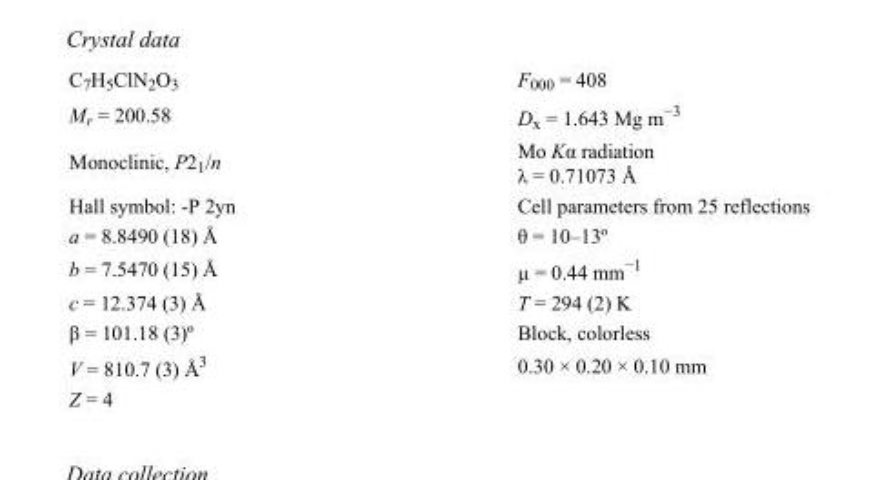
<table><tbody><tr><td>C<sub>7</sub>H<sub>5</sub>ClN<sub>2</sub>O<sub>3</sub></td><td>F000 = 408</td></tr><tr><td>M<sub>r</sub> = 200.58</td><td>D<sub>x</sub> = 1.643 Mg m<sup>−3</sup></td></tr><tr><td>Monoclinic, P2<sub>1</sub>/n</td><td>Mo Kα radiation λ = 0.71073 Å</td></tr><tr><td>Hall symbol: -P 2yn</td><td>Cell parameters from 25 reflections</td></tr><tr><td>a = 8.8490 (18) Å</td><td>θ = 10–13º</td></tr><tr><td>b = 7.5470 (15) Å</td><td>µ = 0.44 mm<sup>−1</sup></td></tr><tr><td>c = 12.374 (3) Å</td><td>T = 294 (2) K</td></tr><tr><td>β = 101.18 (3)º</td><td>Block, colorless</td></tr><tr><td>V = 810.7 (3) Å<sup>3</sup></td><td>0.30 × 0.20 × 0.10 mm</td></tr><tr><td>Z = 4</td><td></td></tr></tbody></table>